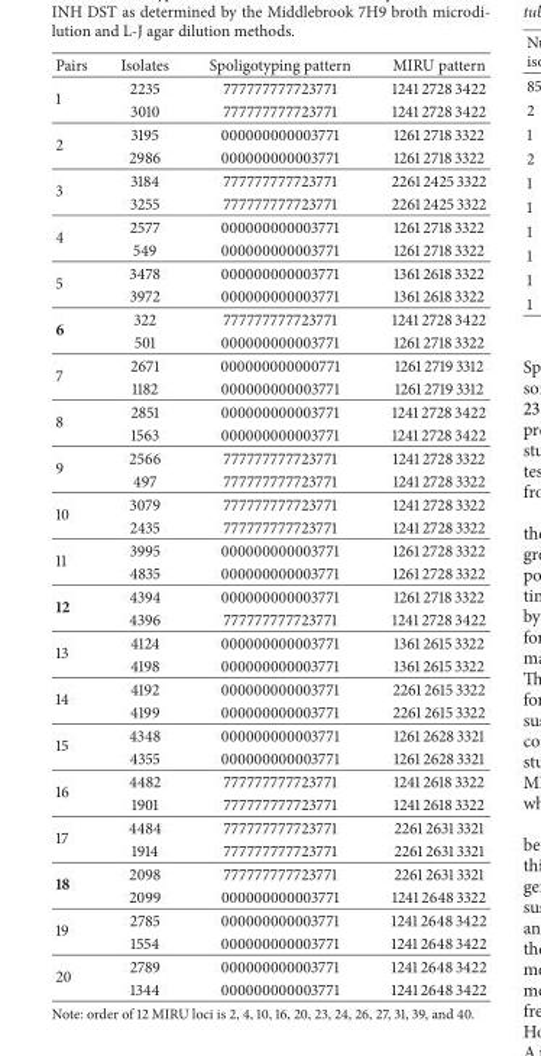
<table><thead><tr><td>Pairs</td><td>Isolates</td><td>Spoligotyping pattern</td><td>MIRU pattern</td></tr></thead><tbody><tr><td rowspan="2">1</td><td>2235</td><td>777777777723771</td><td>1241 2728 3422</td></tr><tr><td>3010</td><td>777777777723771</td><td>1241 2728 3422</td></tr><tr><td rowspan="2">2</td><td>3195</td><td>000000000003771</td><td>1261 2718 3322</td></tr><tr><td>2986</td><td>000000000003771</td><td>1261 2718 3322</td></tr><tr><td rowspan="2">3</td><td>3184</td><td>777777777723771</td><td>2261 2425 3322</td></tr><tr><td>3255</td><td>777777777723771</td><td>2261 2425 3322</td></tr><tr><td rowspan="2">4</td><td>2577</td><td>000000000003771</td><td>1261 2718 3322</td></tr><tr><td>549</td><td>000000000003771</td><td>1261 2718 3322</td></tr><tr><td rowspan="2">5</td><td>3478</td><td>000000000003771</td><td>1361 2618 3322</td></tr><tr><td>3972</td><td>000000000003771</td><td>1361 2618 3322</td></tr><tr><td rowspan="2">6</td><td>322</td><td>777777777723771</td><td>1241 2728 3422</td></tr><tr><td>501</td><td>000000000003771</td><td>1261 2718 3322</td></tr><tr><td rowspan="2">7</td><td>2671</td><td>000000000000771</td><td>1261 2719 3312</td></tr><tr><td>1182</td><td>000000000003771</td><td>1261 2719 3312</td></tr><tr><td rowspan="2">8</td><td>2851</td><td>000000000003771</td><td>1241 2728 3422</td></tr><tr><td>1563</td><td>000000000003771</td><td>1241 2728 3422</td></tr><tr><td rowspan="2">9</td><td>2566</td><td>777777777723771</td><td>1241 2728 3322</td></tr><tr><td>497</td><td>777777777723771</td><td>1241 2728 3322</td></tr><tr><td rowspan="2">10</td><td>3079</td><td>777777777723771</td><td>1241 2728 3322</td></tr><tr><td>2435</td><td>777777777723771</td><td>1241 2728 3322</td></tr><tr><td rowspan="2">11</td><td>3995</td><td>000000000003771</td><td>1261 2728 3322</td></tr><tr><td>4835</td><td>000000000003771</td><td>1261 2728 3322</td></tr><tr><td rowspan="2">12</td><td>4394</td><td>000000000003771</td><td>1261 2718 3322</td></tr><tr><td>4396</td><td>777777777723771</td><td>1241 2728 3422</td></tr><tr><td rowspan="2">13</td><td>4124</td><td>000000000003771</td><td>1361 2615 3322</td></tr><tr><td>4198</td><td>000000000003771</td><td>1361 2615 3322</td></tr><tr><td rowspan="2">14</td><td>4192</td><td>000000000003771</td><td>2261 2615 3322</td></tr><tr><td>4199</td><td>000000000003771</td><td>2261 2615 3322</td></tr><tr><td rowspan="2">15</td><td>4348</td><td>000000000003771</td><td>1261 2628 3321</td></tr><tr><td>4355</td><td>000000000003771</td><td>1261 2628 3321</td></tr><tr><td rowspan="2">16</td><td>4482</td><td>777777777723771</td><td>1241 2618 3322</td></tr><tr><td>1901</td><td>777777777723771</td><td>1241 2618 3322</td></tr><tr><td rowspan="2">17</td><td>4484</td><td>777777777723771</td><td>2261 2631 3321</td></tr><tr><td>1914</td><td>777777777723771</td><td>2261 2631 3321</td></tr><tr><td rowspan="2">18</td><td>2098</td><td>777777777723771</td><td>2261 2631 3321</td></tr><tr><td>2099</td><td>000000000003771</td><td>1241 2648 3322</td></tr><tr><td rowspan="2">19</td><td>2785</td><td>000000000003771</td><td>1241 2648 3422</td></tr><tr><td>1554</td><td>000000000003771</td><td>1241 2648 3422</td></tr><tr><td rowspan="2">20</td><td>2789</td><td>000000000003771</td><td>1241 2648 3422</td></tr><tr><td>1344</td><td>000000000003771</td><td>1241 2648 3422</td></tr></tbody></table>